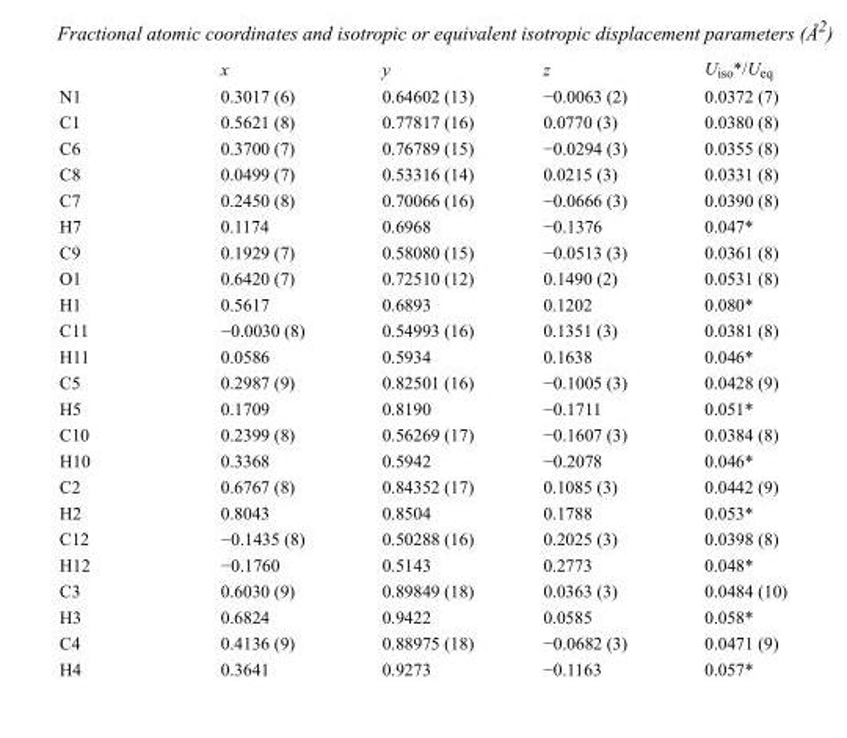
<table><thead><tr><td></td><td>x</td><td>y</td><td>z</td><td>U<sub>iso</sub>*/U<sub>eq</sub></td></tr></thead><tbody><tr><td>N1</td><td>0.3017 (6)</td><td>0.64602 (13)</td><td>−0.0063 (2)</td><td>0.0372 (7)</td></tr><tr><td>C1</td><td>0.5621 (8)</td><td>0.77817 (16)</td><td>0.0770 (3)</td><td>0.0380 (8)</td></tr><tr><td>C6</td><td>0.3700 (7)</td><td>0.76789 (15)</td><td>−0.0294 (3)</td><td>0.0355 (8)</td></tr><tr><td>C8</td><td>0.0499 (7)</td><td>0.53316 (14)</td><td>0.0215 (3)</td><td>0.0331 (8)</td></tr><tr><td>C7</td><td>0.2450 (8)</td><td>0.70066 (16)</td><td>−0.0666 (3)</td><td>0.0390 (8)</td></tr><tr><td>H7</td><td>0.1174</td><td>0.6968</td><td>−0.1376</td><td>0.047*</td></tr><tr><td>C9</td><td>0.1929 (7)</td><td>0.58080 (15)</td><td>−0.0513 (3)</td><td>0.0361 (8)</td></tr><tr><td>O1</td><td>0.6420 (7)</td><td>0.72510 (12)</td><td>0.1490 (2)</td><td>0.0531 (8)</td></tr><tr><td>H1</td><td>0.5617</td><td>0.6893</td><td>0.1202</td><td>0.080*</td></tr><tr><td>C11</td><td>−0.0030 (8)</td><td>0.54993 (16)</td><td>0.1351 (3)</td><td>0.0381 (8)</td></tr><tr><td>H11</td><td>0.0586</td><td>0.5934</td><td>0.1638</td><td>0.046*</td></tr><tr><td>C5</td><td>0.2987 (9)</td><td>0.82501 (16)</td><td>−0.1005 (3)</td><td>0.0428 (9)</td></tr><tr><td>H5</td><td>0.1709</td><td>0.8190</td><td>−0.1711</td><td>0.051*</td></tr><tr><td>C10</td><td>0.2399 (8)</td><td>0.56269 (17)</td><td>−0.1607 (3)</td><td>0.0384 (8)</td></tr><tr><td>H10</td><td>0.3368</td><td>0.5942</td><td>−0.2078</td><td>0.046*</td></tr><tr><td>C2</td><td>0.6767 (8)</td><td>0.84352 (17)</td><td>0.1085 (3)</td><td>0.0442 (9)</td></tr><tr><td>H2</td><td>0.8043</td><td>0.8504</td><td>0.1788</td><td>0.053*</td></tr><tr><td>C12</td><td>−0.1435 (8)</td><td>0.50288 (16)</td><td>0.2025 (3)</td><td>0.0398 (8)</td></tr><tr><td>H12</td><td>−0.1760</td><td>0.5143</td><td>0.2773</td><td>0.048*</td></tr><tr><td>C3</td><td>0.6030 (9)</td><td>0.89849 (18)</td><td>0.0363 (3)</td><td>0.0484 (10)</td></tr><tr><td>H3</td><td>0.6824</td><td>0.9422</td><td>0.0585</td><td>0.058*</td></tr><tr><td>C4</td><td>0.4136 (9)</td><td>0.88975 (18)</td><td>−0.0682 (3)</td><td>0.0471 (9)</td></tr><tr><td>H4</td><td>0.3641</td><td>0.9273</td><td>−0.1163</td><td>0.057*</td></tr></tbody></table>